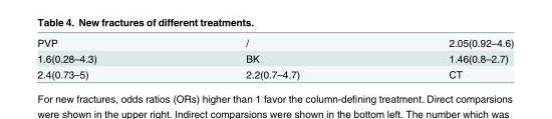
<table><tbody><tr><td>PVP</td><td>/</td><td>2.05(0.92–4.6)</td></tr><tr><td>1.6(0.28–4.3)</td><td>BK</td><td>1.46(0.8–2.7)</td></tr><tr><td>2.4(0.73–5)</td><td>2.2(0.7–4.7)</td><td>CT</td></tr></tbody></table>